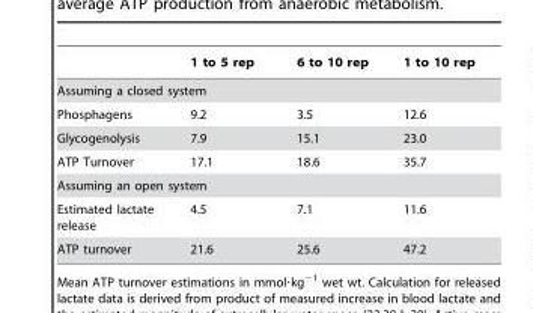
<table><thead><tr><td></td><td>1 to 5 rep</td><td>6 to 10 rep</td><td>1 to 10 rep</td></tr></thead><tbody><tr><td colspan="4">Assuming a closed system</td></tr><tr><td>Phosphagens</td><td>9.2</td><td>3.5</td><td>12.6</td></tr><tr><td>Glycogenolysis</td><td>7.9</td><td>15.1</td><td>23.0</td></tr><tr><td>ATP Turnover</td><td>17.1</td><td>18.6</td><td>35.7</td></tr><tr><td colspan="4">Assuming an open system</td></tr><tr><td>Estimated lactate release</td><td>4.5</td><td>7.1</td><td>11.6</td></tr><tr><td>ATP turnover</td><td>21.6</td><td>25.6</td><td>47.2</td></tr></tbody></table>